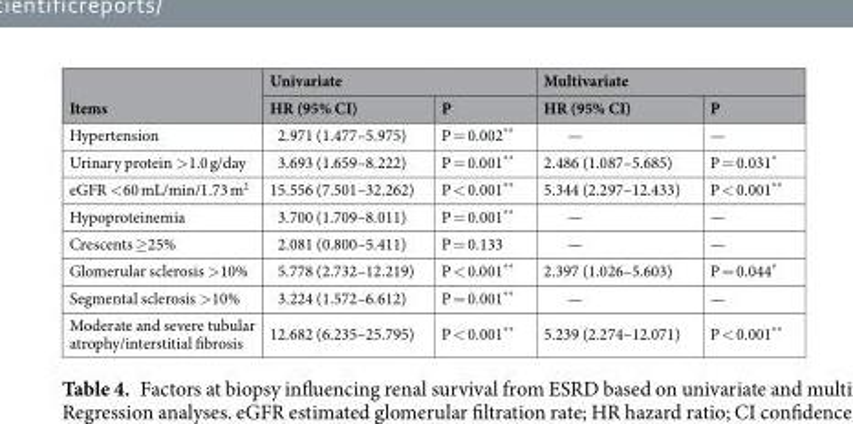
<table><thead><tr><td rowspan="2">Items</td><td colspan="2">Univariate</td><td colspan="2">Multivariate</td></tr><tr><td>HR (95% CI)</td><td>P</td><td>HR (95% CI)</td><td>P</td></tr></thead><tbody><tr><td>Hypertension</td><td>2.971 (1.477–5.975)</td><td>P = 0.002**</td><td>—</td><td>—</td></tr><tr><td>Urinary protein &gt;1.0 g/day</td><td>3.693 (1.659–8.222)</td><td>P = 0.001**</td><td>2.486 (1.087–5.685)</td><td>P = 0.031*</td></tr><tr><td>eGFR &lt;60 mL/min/1.73 m<sup>2</sup></td><td>15.556 (7.501–32.262)</td><td>P &lt; 0.001**</td><td>5.344 (2.297–12.433)</td><td>P &lt; 0.001**</td></tr><tr><td>Hypoproteinemia</td><td>3.700 (1.709–8.011)</td><td>P = 0.001**</td><td>—</td><td>—</td></tr><tr><td>Crescents ≥25%</td><td>2.081 (0.800–5.411)</td><td>P = 0.133</td><td>—</td><td>—</td></tr><tr><td>Glomerular sclerosis &gt;10%</td><td>5.778 (2.732–12.219)</td><td>P &lt; 0.001**</td><td>2.397 (1.026–5.603)</td><td>P = 0.044*</td></tr><tr><td>Segmental sclerosis &gt;10%</td><td>3.224 (1.572–6.612)</td><td>P = 0.001**</td><td>—</td><td>—</td></tr><tr><td>Moderate and severe tubular atrophy/interstitial fibrosis</td><td>12.682 (6.235–25.795)</td><td>P &lt; 0.001**</td><td>5.239 (2.274–12.071)</td><td>P &lt; 0.001**</td></tr></tbody></table>